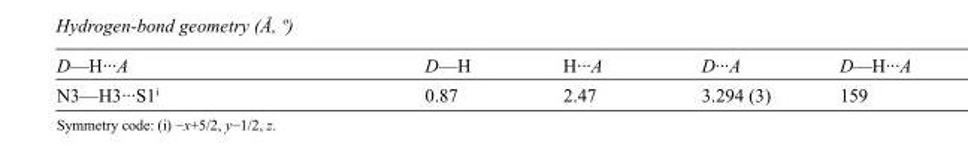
<table><tbody><tr><td>D—H···A</td><td>D—H</td><td>H···A</td><td>D···A</td><td>D—H···A</td></tr><tr><td>N3—H3···S1<sup>i</sup></td><td>0.87</td><td>2.47</td><td>3.294 (3)</td><td>159</td></tr></tbody></table>